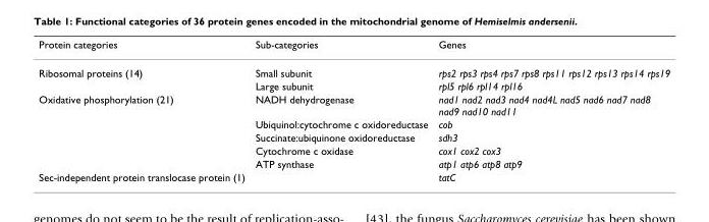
<table><thead><tr><td>Protein categories</td><td>Sub-categories</td><td>Genes</td></tr></thead><tbody><tr><td rowspan="2">Ribosomal proteins (14)</td><td>Small subunit</td><td>rps2 rps3 rps4 rps7 rps8 rps11 rps12 rps13 rps14 rps19</td></tr><tr><td>Large subunit</td><td>rpl5 rpl6 rpl14 rpl16</td></tr><tr><td rowspan="5">Oxidative phosphorylation (21)</td><td>NADH dehydrogenase</td><td>nad1 nad2 nad3 nad4 nad4L nad5 nad6 nad7 nad8 nad9 nad10 nad11</td></tr><tr><td>Ubiquinol:cytochrome c oxidoreductase</td><td>cob</td></tr><tr><td>Succinate:ubiquinone oxidoreductase</td><td>sdh3</td></tr><tr><td>Cytochrome c oxidase</td><td>cox1 cox2 cox3</td></tr><tr><td>ATP synthase</td><td>atp1 atp6 atp8 atp9</td></tr><tr><td>Sec-independent protein translocase protein (1)</td><td></td><td>tatC</td></tr></tbody></table>